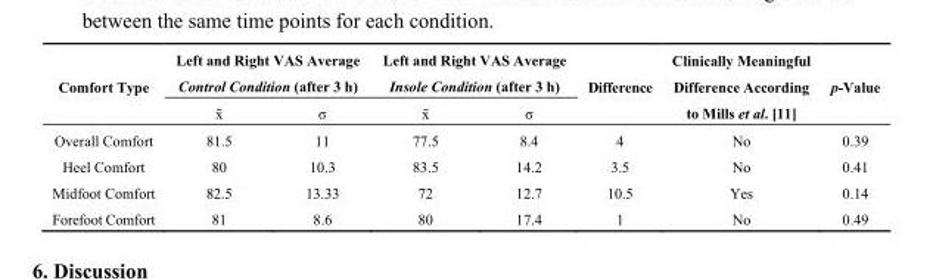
<table><thead><tr><td rowspan="2">Comfort Type</td><td colspan="2">Left and Right VAS Average Control Condition (after 3 h)</td><td colspan="2">Left and Right VAS Average Insole Condition (after 3 h)</td><td rowspan="2">Difference</td><td rowspan="2">Clinically Meaningful Difference According to Mills et al. [11]</td><td rowspan="2">p-Value</td></tr><tr><td>x̄</td><td>σ</td><td>x̄</td><td>σ</td></tr></thead><tbody><tr><td>Overall Comfort</td><td>81.5</td><td>11</td><td>77.5</td><td>8.4</td><td>4</td><td>No</td><td>0.39</td></tr><tr><td>Heel Comfort</td><td>80</td><td>10.3</td><td>83.5</td><td>14.2</td><td>3.5</td><td>No</td><td>0.41</td></tr><tr><td>Midfoot Comfort</td><td>82.5</td><td>13.33</td><td>72</td><td>12.7</td><td>10.5</td><td>Yes</td><td>0.14</td></tr><tr><td>Forefoot Comfort</td><td>81</td><td>8.6</td><td>80</td><td>17.4</td><td>1</td><td>No</td><td>0.49</td></tr></tbody></table>